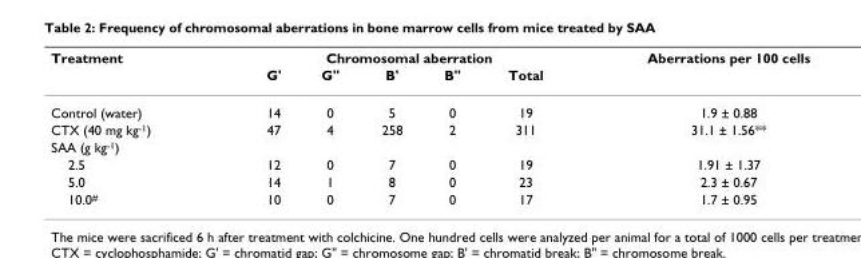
<table><thead><tr><td rowspan="2">Treatment</td><td colspan="5">Chromosomal aberration</td><td rowspan="2">Aberrations per 100 cells</td></tr><tr><td>G&#x27;</td><td>G&quot;</td><td>B&#x27;</td><td>B&quot;</td><td>Total</td></tr></thead><tbody><tr><td>Control (water)</td><td>14</td><td>0</td><td>5</td><td>0</td><td>19</td><td>1.9 ± 0.88</td></tr><tr><td>CTX (40 mg kg<sup>-1</sup>)</td><td>47</td><td>4</td><td>258</td><td>2</td><td>311</td><td>31.1 ± 1.56**</td></tr><tr><td colspan="7">SAA (g kg<sup>-1</sup>)</td></tr><tr><td>2.5</td><td>12</td><td>0</td><td>7</td><td>0</td><td>19</td><td>1.91 ± 1.37</td></tr><tr><td>5.0</td><td>14</td><td>1</td><td>8</td><td>0</td><td>23</td><td>2.3 ± 0.67</td></tr><tr><td>10.0<sup>#</sup></td><td>10</td><td>0</td><td>7</td><td>0</td><td>17</td><td>1.7 ± 0.95</td></tr></tbody></table>